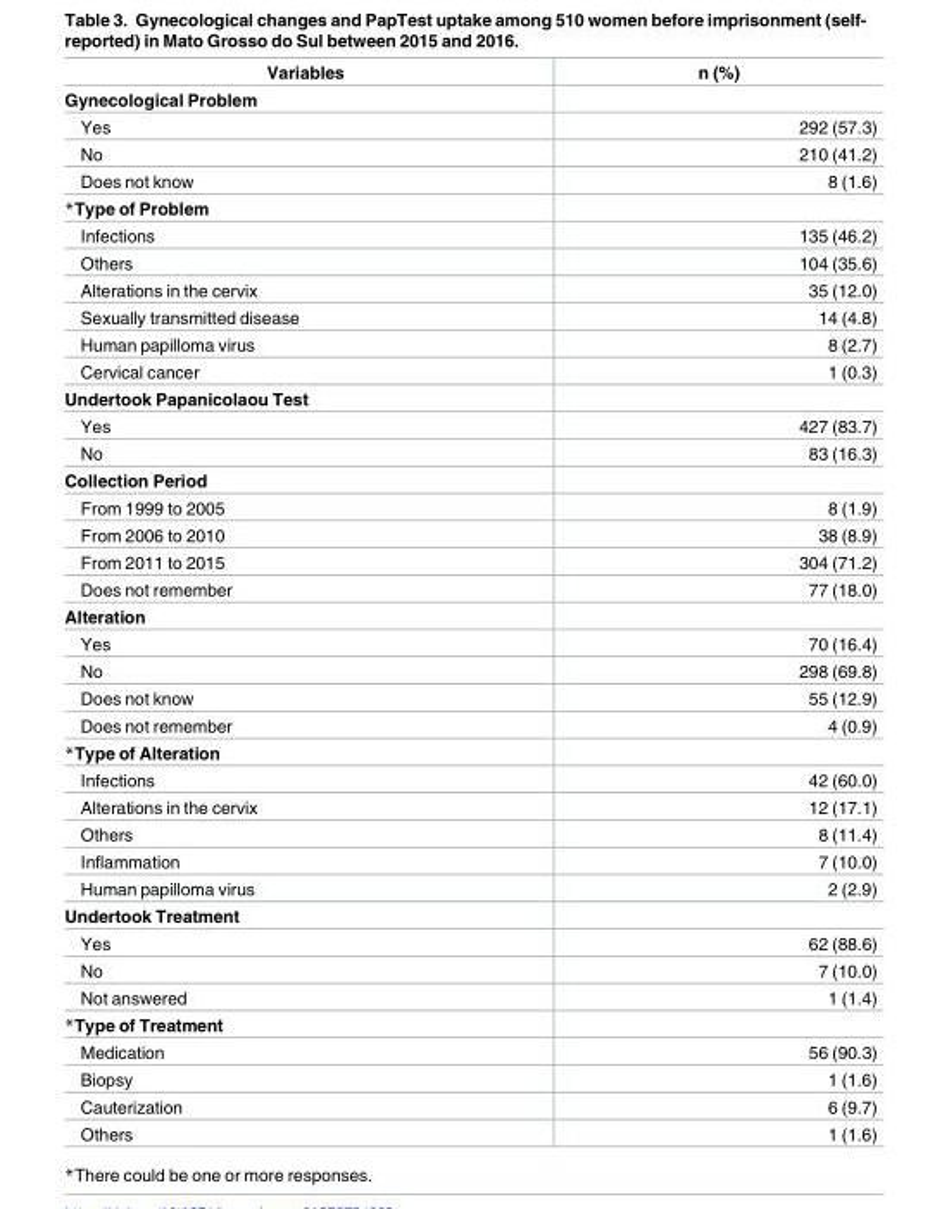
<table><thead><tr><td>Variables</td><td>n (%)</td></tr></thead><tbody><tr><td colspan="2">Gynecological Problem</td></tr><tr><td>Yes</td><td>292 (57.3)</td></tr><tr><td>No</td><td>210 (41.2)</td></tr><tr><td>Does not know</td><td>8 (1.6)</td></tr><tr><td colspan="2">*Type of Problem</td></tr><tr><td>Infections</td><td>135 (46.2)</td></tr><tr><td>Others</td><td>104 (35.6)</td></tr><tr><td>Alterations in the cervix</td><td>35 (12.0)</td></tr><tr><td>Sexually transmitted disease</td><td>14 (4.8)</td></tr><tr><td>Human papilloma virus</td><td>8 (2.7)</td></tr><tr><td>Cervical cancer</td><td>1 (0.3)</td></tr><tr><td colspan="2">Undertook Papanicolaou Test</td></tr><tr><td>Yes</td><td>427 (83.7)</td></tr><tr><td>No</td><td>83 (16.3)</td></tr><tr><td colspan="2">Collection Period</td></tr><tr><td>From 1999 to 2005</td><td>8 (1.9)</td></tr><tr><td>From 2006 to 2010</td><td>38 (8.9)</td></tr><tr><td>From 2011 to 2015</td><td>304 (71.2)</td></tr><tr><td>Does not remember</td><td>77 (18.0)</td></tr><tr><td colspan="2">Alteration</td></tr><tr><td>Yes</td><td>70 (16.4)</td></tr><tr><td>No</td><td>298 (69.8)</td></tr><tr><td>Does not know</td><td>55 (12.9)</td></tr><tr><td>Does not remember</td><td>4 (0.9)</td></tr><tr><td colspan="2">*Type of Alteration</td></tr><tr><td>Infections</td><td>42 (60.0)</td></tr><tr><td>Alterations in the cervix</td><td>12 (17.1)</td></tr><tr><td>Others</td><td>8 (11.4)</td></tr><tr><td>Inflammation</td><td>7 (10.0)</td></tr><tr><td>Human papilloma virus</td><td>2 (2.9)</td></tr><tr><td colspan="2">Undertook Treatment</td></tr><tr><td>Yes</td><td>62 (88.6)</td></tr><tr><td>No</td><td>7 (10.0)</td></tr><tr><td>Not answered</td><td>1 (1.4)</td></tr><tr><td colspan="2">*Type of Treatment</td></tr><tr><td>Medication</td><td>56 (90.3)</td></tr><tr><td>Biopsy</td><td>1 (1.6)</td></tr><tr><td>Cauterization</td><td>6 (9.7)</td></tr><tr><td>Others</td><td>1 (1.6)</td></tr></tbody></table>